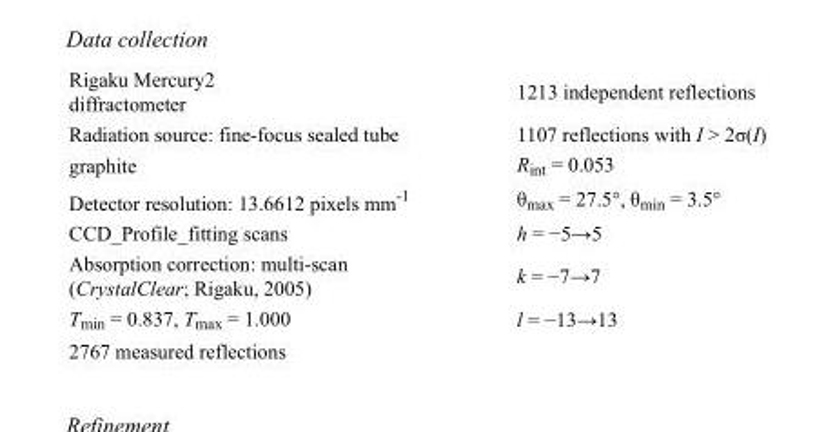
<table><tbody><tr><td>Rigaku Mercury2 diffractometer</td><td>1213 independent reflections</td></tr><tr><td>Radiation source: fine-focus sealed tube</td><td>1107 reflections with I &gt; 2σ(I)</td></tr><tr><td>graphite</td><td>R<sub>int</sub> = 0.053</td></tr><tr><td>Detector resolution: 13.6612 pixels mm<sup>-1</sup></td><td>θ<sub>max</sub> = 27.5°, θ<sub>min</sub> = 3.5°</td></tr><tr><td>CCD_Profile_fitting scans</td><td>h = −5→5</td></tr><tr><td>Absorption correction: multi-scan (CrystalClear; Rigaku, 2005)</td><td>k = −7→7</td></tr><tr><td>T<sub>min</sub> = 0.837, T<sub>max</sub> = 1.000</td><td>l = −13→13</td></tr><tr><td>2767 measured reflections</td><td></td></tr></tbody></table>